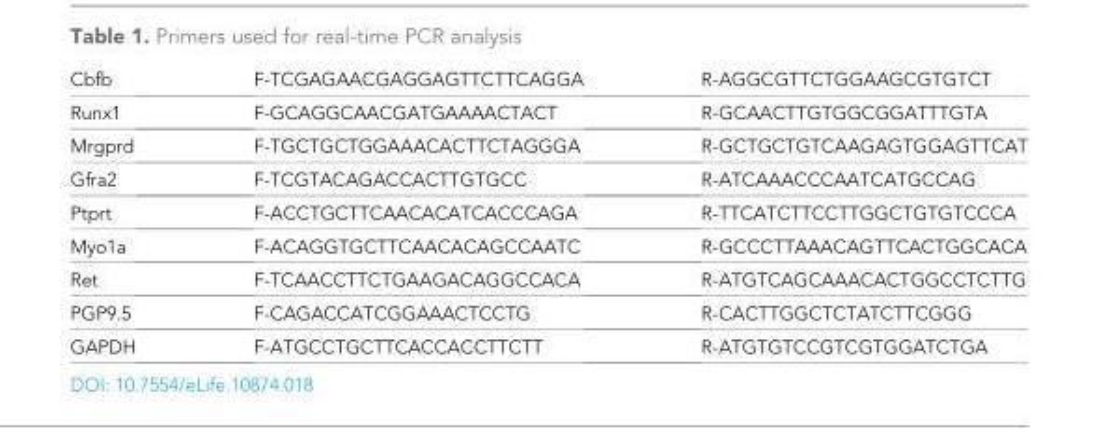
<table><tbody><tr><td>Cbfb</td><td>F-TCGAGAACGAGGAGTTCTTCAGGA</td><td>R-AGGCGTTCTGGAAGCGTGTCT</td></tr><tr><td>Runx1</td><td>F-GCAGGCAACGATGAAAACTACT</td><td>R-GCAACTTGTGGCGGATTTGTA</td></tr><tr><td>Mrgprd</td><td>F-TGCTGCTGGAAACACTTCTAGGGA</td><td>R-GCTGCTGTCAAGAGTGGAGTTCAT</td></tr><tr><td>Gfra2</td><td>F-TCGTACAGACCACTTGTGCC</td><td>R-ATCAAACCCAATCATGCCAG</td></tr><tr><td>Ptprt</td><td>F-ACCTGCTTCAACACATCACCCAGA</td><td>R-TTCATCTTCCTTGGCTGTGTCCCA</td></tr><tr><td>Myo1a</td><td>F-ACAGGTGCTTCAACACAGCCAATC</td><td>R-GCCCTTAAACAGTTCACTGGCACA</td></tr><tr><td>Ret</td><td>F-TCAACCTTCTGAAGACAGGCCACA</td><td>R-ATGTCAGCAAACACTGGCCTCTTG</td></tr><tr><td>PGP9.5</td><td>F-CAGACCATCGGAAACTCCTG</td><td>R-CACTTGGCTCTATCTTCGGG</td></tr><tr><td>GAPDH</td><td>F-ATGCCTGCTTCACCACCTTCTT</td><td>R-ATGTGTCCGTCGTGGATCTGA</td></tr></tbody></table>